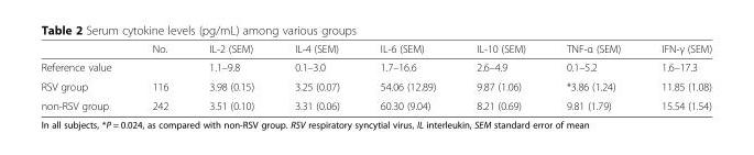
<table><thead><tr><td></td><td>No.</td><td>IL-2 (SEM)</td><td>IL-4 (SEM)</td><td>IL-6 (SEM)</td><td>IL-10 (SEM)</td><td>TNF-α (SEM)</td><td>IFN-γ (SEM)</td></tr></thead><tbody><tr><td>Reference value</td><td></td><td>1.1–9.8</td><td>0.1–3.0</td><td>1.7–16.6</td><td>2.6–4.9</td><td>0.1–5.2</td><td>1.6–17.3</td></tr><tr><td>RSV group</td><td>116</td><td>3.98 (0.15)</td><td>3.25 (0.07)</td><td>54.06 (12.89)</td><td>9.87 (1.06)</td><td>*3.86 (1.24)</td><td>11.85 (1.08)</td></tr><tr><td>non-RSV group</td><td>242</td><td>3.51 (0.10)</td><td>3.31 (0.06)</td><td>60.30 (9.04)</td><td>8.21 (0.69)</td><td>9.81 (1.79)</td><td>15.54 (1.54)</td></tr></tbody></table>